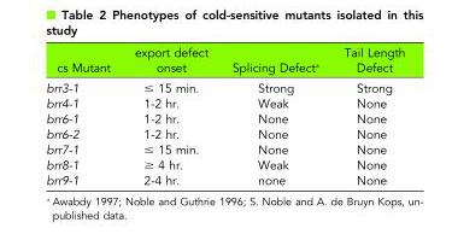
<table><thead><tr><td>cs Mutant</td><td>export defect onset</td><td>Splicing Defect*</td><td>Tail Length Defect</td></tr></thead><tbody><tr><td>brr3-1</td><td>≤ 15 min.</td><td>Strong</td><td>Strong</td></tr><tr><td>brr4-1</td><td>1-2 hr.</td><td>Weak</td><td>None</td></tr><tr><td>brr6-1</td><td>1-2 hr.</td><td>None</td><td>None</td></tr><tr><td>brr6-2</td><td>1-2 hr.</td><td>None</td><td>None</td></tr><tr><td>brr7-1</td><td>≤ 15 min.</td><td>None</td><td>None</td></tr><tr><td>brr8-1</td><td>≥ 4 hr.</td><td>Weak</td><td>None</td></tr><tr><td>brr9-1</td><td>2-4 hr.</td><td>none</td><td>None</td></tr></tbody></table>